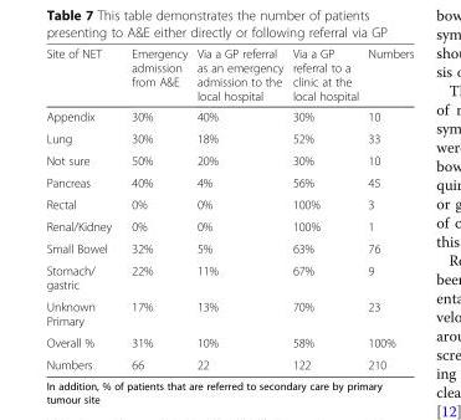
<table><thead><tr><td>Site of NET</td><td>Emergency admission from A&amp;E</td><td>Via a GP referral as an emergency admission to the local hospital</td><td>Via a GP referral to a clinic at the local hospital</td><td>Numbers</td></tr></thead><tbody><tr><td>Appendix</td><td>30%</td><td>40%</td><td>30%</td><td>10</td></tr><tr><td>Lung</td><td>30%</td><td>18%</td><td>52%</td><td>33</td></tr><tr><td>Not sure</td><td>50%</td><td>20%</td><td>30%</td><td>10</td></tr><tr><td>Pancreas</td><td>40%</td><td>4%</td><td>56%</td><td>45</td></tr><tr><td>Rectal</td><td>0%</td><td>0%</td><td>100%</td><td>3</td></tr><tr><td>Renal/Kidney</td><td>0%</td><td>0%</td><td>100%</td><td>1</td></tr><tr><td>Small Bowel</td><td>32%</td><td>5%</td><td>63%</td><td>76</td></tr><tr><td>Stomach/ gastric</td><td>22%</td><td>11%</td><td>67%</td><td>9</td></tr><tr><td>Unknown Primary</td><td>17%</td><td>13%</td><td>70%</td><td>23</td></tr><tr><td>Overall %</td><td>31%</td><td>10%</td><td>58%</td><td>100%</td></tr><tr><td>Numbers</td><td>66</td><td>22</td><td>122</td><td>210</td></tr></tbody></table>